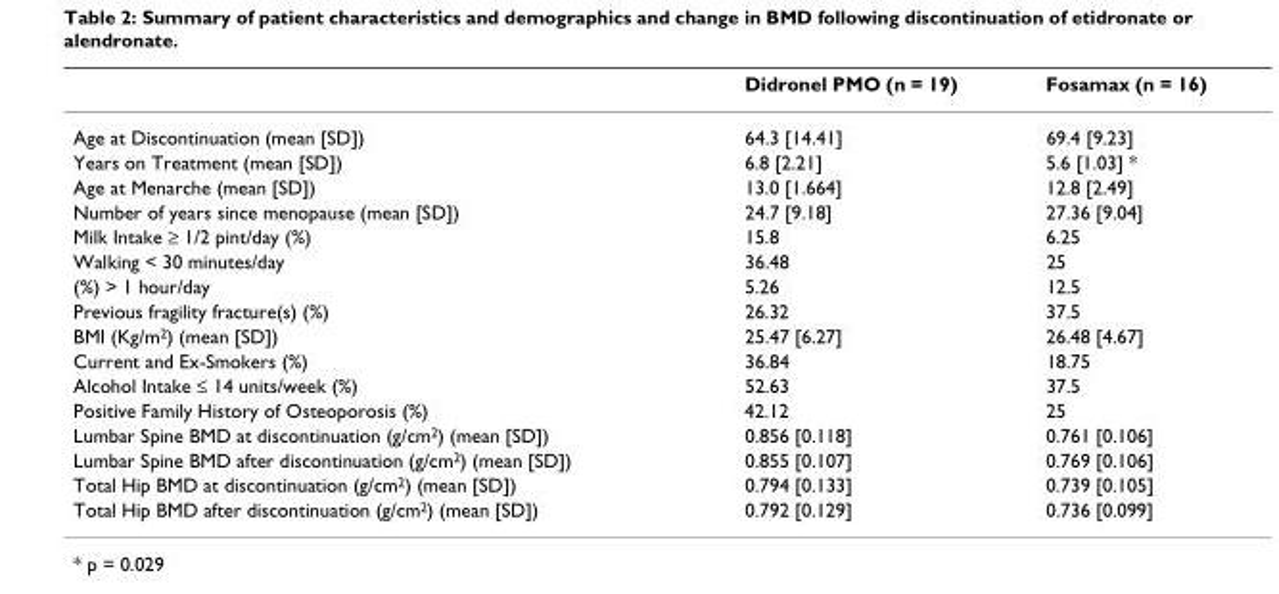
<table><thead><tr><td></td><td>Didronel PMO (n = 19)</td><td>Fosamax (n = 16)</td></tr></thead><tbody><tr><td>Age at Discontinuation (mean [SD])</td><td>64.3 [14.41]</td><td>69.4 [9.23]</td></tr><tr><td>Years on Treatment (mean [SD])</td><td>6.8 [2.21]</td><td>5.6 [1.03] *</td></tr><tr><td>Age at Menarche (mean [SD])</td><td>13.0 [1.664]</td><td>12.8 [2.49]</td></tr><tr><td>Number of years since menopause (mean [SD])</td><td>24.7 [9.18]</td><td>27.36 [9.04]</td></tr><tr><td>Milk Intake ≥ 1/2 pint/day (%)</td><td>15.8</td><td>6.25</td></tr><tr><td>Walking &lt; 30 minutes/day</td><td>36.48</td><td>25</td></tr><tr><td>(%) &gt; 1 hour/day</td><td>5.26</td><td>12.5</td></tr><tr><td>Previous fragility fracture(s) (%)</td><td>26.32</td><td>37.5</td></tr><tr><td>BMI (Kg/m2) (mean [SD])</td><td>25.47 [6.27]</td><td>26.48 [4.67]</td></tr><tr><td>Current and Ex-Smokers (%)</td><td>36.84</td><td>18.75</td></tr><tr><td>Alcohol Intake ≤ 14 units/week (%)</td><td>52.63</td><td>37.5</td></tr><tr><td>Positive Family History of Osteoporosis (%)</td><td>42.12</td><td>25</td></tr><tr><td>Lumbar Spine BMD at discontinuation (g/cm2) (mean [SD])</td><td>0.856 [0.118]</td><td>0.761 [0.106]</td></tr><tr><td>Lumbar Spine BMD after discontinuation (g/cm2) (mean [SD])</td><td>0.855 [0.107]</td><td>0.769 [0.106]</td></tr><tr><td>Total Hip BMD at discontinuation (g/cm2) (mean [SD])</td><td>0.794 [0.133]</td><td>0.739 [0.105]</td></tr><tr><td>Total Hip BMD after discontinuation (g/cm2) (mean [SD])</td><td>0.792 [0.129]</td><td>0.736 [0.099]</td></tr></tbody></table>